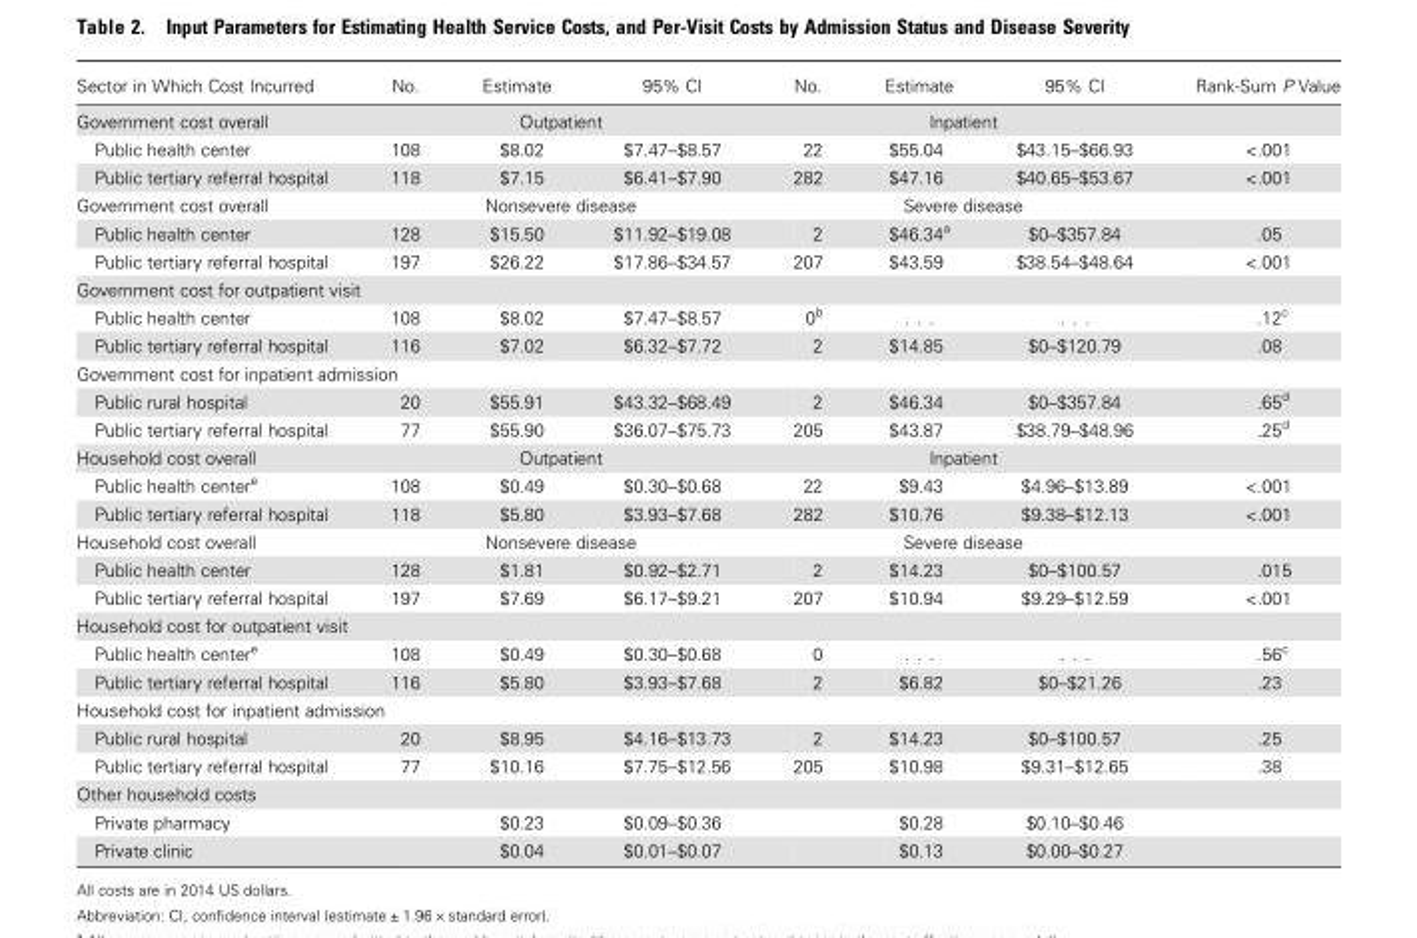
<table><thead><tr><td>Sector in Which Cost Incurred</td><td>No.</td><td>Estimate</td><td>95% CI</td><td>No.</td><td>Estimate</td><td>95% CI</td><td>Rank-Sum P Value</td></tr></thead><tbody><tr><td>Government cost overall</td><td colspan="3">Outpatient</td><td colspan="3">Inpatient</td><td></td></tr><tr><td>Public health center</td><td>108</td><td>$8.02</td><td>$7.47–$8.57</td><td>22</td><td>$55.04</td><td>$43.15–$66.93</td><td>&lt;.001</td></tr><tr><td>Public tertiary referral hospital</td><td>118</td><td>$7.15</td><td>$6.41–$7.90</td><td>282</td><td>$47.16</td><td>$40.65–$53.67</td><td>&lt;.001</td></tr><tr><td>Government cost overall</td><td colspan="3">Nonsevere disease</td><td colspan="3">Severe disease</td><td></td></tr><tr><td>Public health center</td><td>128</td><td>$15.50</td><td>$11.92–$19.08</td><td>2</td><td>$46.34<sup>a</sup></td><td>$0–$357.84</td><td>.05</td></tr><tr><td>Public tertiary referral hospital</td><td>197</td><td>$26.22</td><td>$17.86–$34.57</td><td>207</td><td>$43.59</td><td>$38.54–$48.64</td><td>&lt;.001</td></tr><tr><td colspan="8">Government cost for outpatient visit</td></tr><tr><td>Public health center</td><td>108</td><td>$8.02</td><td>$7.47–$8.57</td><td>0<sup>b</sup></td><td>. . .</td><td>. . .</td><td>.12<sup>c</sup></td></tr><tr><td>Public tertiary referral hospital</td><td>116</td><td>$7.02</td><td>$6.32–$7.72</td><td>2</td><td>$14.85</td><td>$0–$120.79</td><td>.08</td></tr><tr><td colspan="8">Government cost for inpatient admission</td></tr><tr><td>Public rural hospital</td><td>20</td><td>$55.91</td><td>$43.32–$68.49</td><td>2</td><td>$46.34</td><td>$0–$357.84</td><td>.65<sup>d</sup></td></tr><tr><td>Public tertiary referral hospital</td><td>77</td><td>$55.90</td><td>$36.07–$75.73</td><td>205</td><td>$43.87</td><td>$38.79–$48.96</td><td>.25<sup>d</sup></td></tr><tr><td>Household cost overall</td><td colspan="3">Outpatient</td><td colspan="3">Inpatient</td><td></td></tr><tr><td>Public health center<sup>e</sup></td><td>108</td><td>$0.49</td><td>$0.30–$0.68</td><td>22</td><td>$9.43</td><td>$4.96–$13.89</td><td>&lt;.001</td></tr><tr><td>Public tertiary referral hospital</td><td>118</td><td>$5.80</td><td>$3.93–$7.68</td><td>282</td><td>$10.76</td><td>$9.38–$12.13</td><td>&lt;.001</td></tr><tr><td>Household cost overall</td><td colspan="3">Nonsevere disease</td><td colspan="3">Severe disease</td><td></td></tr><tr><td>Public health center</td><td>128</td><td>$1.81</td><td>$0.92–$2.71</td><td>2</td><td>$14.23</td><td>$0–$100.57</td><td>.015</td></tr><tr><td>Public tertiary referral hospital</td><td>197</td><td>$7.69</td><td>$6.17–$9.21</td><td>207</td><td>$10.94</td><td>$9.29–$12.59</td><td>&lt;.001</td></tr><tr><td colspan="8">Household cost for outpatient visit</td></tr><tr><td>Public health center<sup>e</sup></td><td>108</td><td>$0.49</td><td>$0.30–$0.68</td><td>0</td><td>. . .</td><td>. . .</td><td>.56<sup>c</sup></td></tr><tr><td>Public tertiary referral hospital</td><td>116</td><td>$5.80</td><td>$3.93–$7.68</td><td>2</td><td>$6.82</td><td>$0–$21.26</td><td>.23</td></tr><tr><td colspan="8">Household cost for inpatient admission</td></tr><tr><td>Public rural hospital</td><td>20</td><td>$8.95</td><td>$4.16–$13.73</td><td>2</td><td>$14.23</td><td>$0–$100.57</td><td>.25</td></tr><tr><td>Public tertiary referral hospital</td><td>77</td><td>$10.16</td><td>$7.75–$12.56</td><td>205</td><td>$10.98</td><td>$9.31–$12.65</td><td>.38</td></tr><tr><td colspan="8">Other household costs</td></tr><tr><td>Private pharmacy</td><td></td><td>$0.23</td><td>$0.09–$0.36</td><td></td><td>$0.28</td><td>$0.10–$0.46</td><td></td></tr><tr><td>Private clinic</td><td></td><td>$0.04</td><td>$0.01–$0.07</td><td></td><td>$0.13</td><td>$0.00–$0.27</td><td></td></tr></tbody></table>